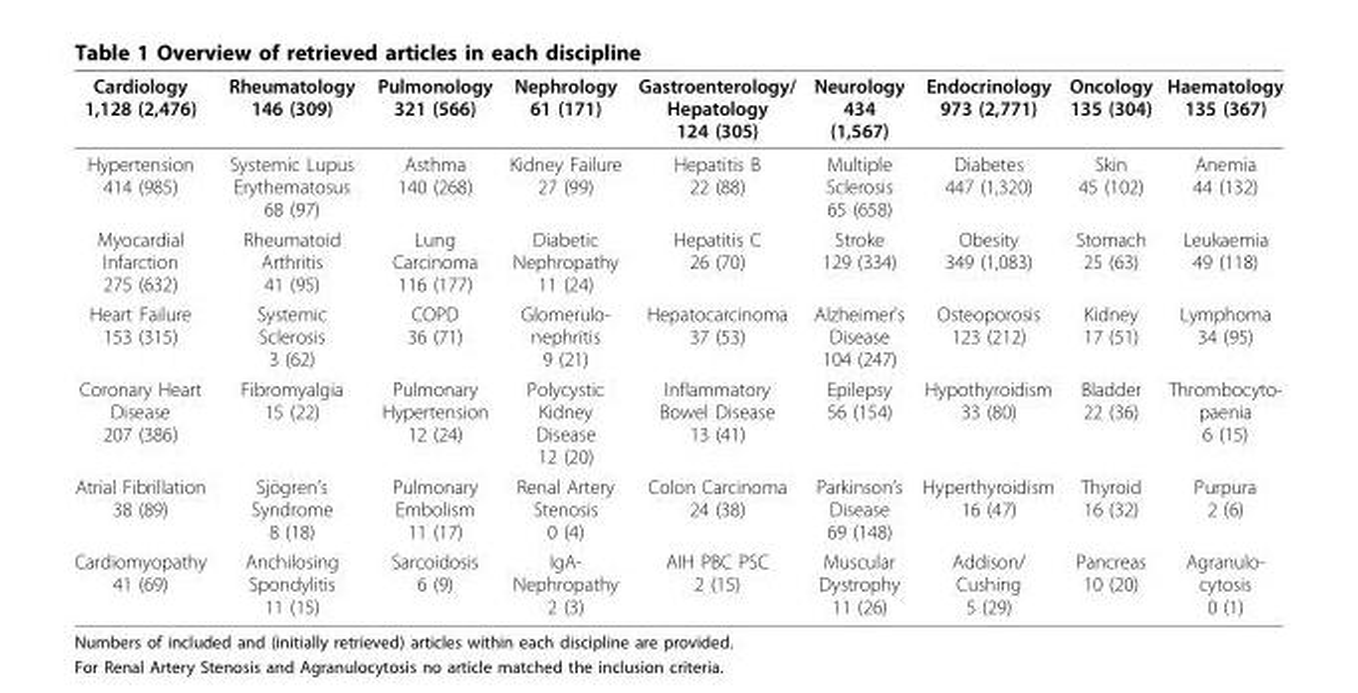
<table><thead><tr><td>Cardiology 1,128 (2,476)</td><td>Rheumatology 146 (309)</td><td>Pulmonology 321 (566)</td><td>Nephrology 61 (171)</td><td>Gastroenterology/ Hepatology 124 (305)</td><td>Neurology 434 (1,567)</td><td>Endocrinology 973 (2,771)</td><td>Oncology 135 (304)</td><td>Haematology 135 (367)</td></tr></thead><tbody><tr><td>Hypertension 414 (985)</td><td>Systemic Lupus Erythematosus 68 (97)</td><td>Asthma 140 (268)</td><td>Kidney Failure 27 (99)</td><td>Hepatitis B 22 (88)</td><td>Multiple Sclerosis 65 (658)</td><td>Diabetes 447 (1,320)</td><td>Skin 45 (102)</td><td>Anemia 44 (132)</td></tr><tr><td>Myocardial Infarction 275 (632)</td><td>Rheumatoid Arthritis 41 (95)</td><td>Lung Carcinoma 116 (177)</td><td>Diabetic Nephropathy 11 (24)</td><td>Hepatitis C 26 (70)</td><td>Stroke 129 (334)</td><td>Obesity 349 (1,083)</td><td>Stomach 25 (63)</td><td>Leukaemia 49 (118)</td></tr><tr><td>Heart Failure 153 (315)</td><td>Systemic Sclerosis 3 (62)</td><td>COPD 36 (71)</td><td>Glomerulo- nephritis 9 (21)</td><td>Hepatocarcinoma 37 (53)</td><td>Alzheimer’s Disease 104 (247)</td><td>Osteoporosis 123 (212)</td><td>Kidney 17 (51)</td><td>Lymphoma 34 (95)</td></tr><tr><td>Coronary Heart Disease 207 (386)</td><td>Fibromyalgia 15 (22)</td><td>Pulmonary Hypertension 12 (24)</td><td>Polycystic Kidney Disease 12 (20)</td><td>Inflammatory Bowel Disease 13 (41)</td><td>Epilepsy 56 (154)</td><td>Hypothyroidism 33 (80)</td><td>Bladder 22 (36)</td><td>Thrombocyto- paenia 6 (15)</td></tr><tr><td>Atrial Fibrillation 38 (89)</td><td>Sjögren’s Syndrome 8 (18)</td><td>Pulmonary Embolism 11 (17)</td><td>Renal Artery Stenosis 0 (4)</td><td>Colon Carcinoma 24 (38)</td><td>Parkinson’s Disease 69 (148)</td><td>Hyperthyroidism 16 (47)</td><td>Thyroid 16 (32)</td><td>Purpura 2 (6)</td></tr><tr><td>Cardiomyopathy 41 (69)</td><td>Anchilosing Spondylitis 11 (15)</td><td>Sarcoidosis 6 (9)</td><td>IgA- Nephropathy 2 (3)</td><td>AIH PBC PSC 2 (15)</td><td>Muscular Dystrophy 11 (26)</td><td>Addison/ Cushing 5 (29)</td><td>Pancreas 10 (20)</td><td>Agranulo- cytosis 0 (1)</td></tr></tbody></table>